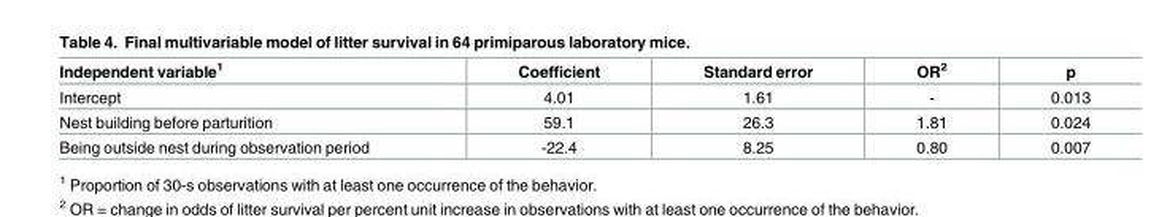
<table><thead><tr><td>Independent variable<sup>1</sup></td><td>Coefficient</td><td>Standard error</td><td>OR<sup>2</sup></td><td>p</td></tr></thead><tbody><tr><td>Intercept</td><td>4.01</td><td>1.61</td><td>-</td><td>0.013</td></tr><tr><td>Nest building before parturition</td><td>59.1</td><td>26.3</td><td>1.81</td><td>0.024</td></tr><tr><td>Being outside nest during observation period</td><td>-22.4</td><td>8.25</td><td>0.80</td><td>0.007</td></tr></tbody></table>